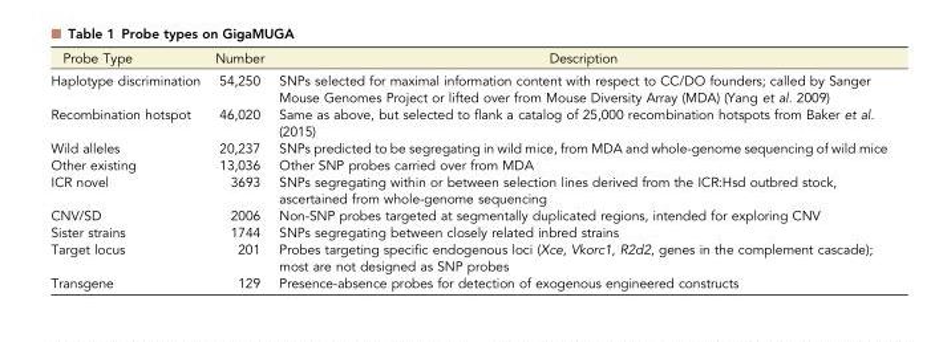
<table><thead><tr><td>Probe Type</td><td>Number</td><td>Description</td></tr></thead><tbody><tr><td>Haplotype discrimination</td><td>54,250</td><td>SNPs selected for maximal information content with respect to CC/DO founders; called by Sanger Mouse Genomes Project or lifted over from Mouse Diversity Array (MDA) (Yang et al. 2009)</td></tr><tr><td>Recombination hotspot</td><td>46,020</td><td>Same as above, but selected to flank a catalog of 25,000 recombination hotspots from Baker et al. (2015)</td></tr><tr><td>Wild alleles</td><td>20,237</td><td>SNPs predicted to be segregating in wild mice, from MDA and whole-genome sequencing of wild mice</td></tr><tr><td>Other existing</td><td>13,036</td><td>Other SNP probes carried over from MDA</td></tr><tr><td>ICR novel</td><td>3693</td><td>SNPs segregating within or between selection lines derived from the ICR:Hsd outbred stock, ascertained from whole-genome sequencing</td></tr><tr><td>CNV/SD</td><td>2006</td><td>Non-SNP probes targeted at segmentally duplicated regions, intended for exploring CNV</td></tr><tr><td>Sister strains</td><td>1744</td><td>SNPs segregating between closely related inbred strains</td></tr><tr><td>Target locus</td><td>201</td><td>Probes targeting specific endogenous loci (Xce, Vkorc1, R2d2, genes in the complement cascade); most are not designed as SNP probes</td></tr><tr><td>Transgene</td><td>129</td><td>Presence-absence probes for detection of exogenous engineered constructs</td></tr></tbody></table>